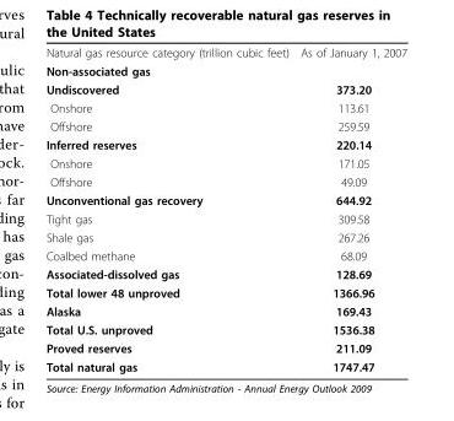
<table><tbody><tr><td>Natural gas resource category (trillion cubic feet)</td><td>As of January 1, 2007</td></tr><tr><td colspan="2">Non-associated gas</td></tr><tr><td>Undiscovered</td><td>373.20</td></tr><tr><td>Onshore</td><td>113.61</td></tr><tr><td>Offshore</td><td>259.59</td></tr><tr><td>Inferred reserves</td><td>220.14</td></tr><tr><td>Onshore</td><td>171.05</td></tr><tr><td>Offshore</td><td>49.09</td></tr><tr><td>Unconventional gas recovery</td><td>644.92</td></tr><tr><td>Tight gas</td><td>309.58</td></tr><tr><td>Shale gas</td><td>267.26</td></tr><tr><td>Coalbed methane</td><td>68.09</td></tr><tr><td>Associated-dissolved gas</td><td>128.69</td></tr><tr><td>Total lower 48 unproved</td><td>1366.96</td></tr><tr><td>Alaska</td><td>169.43</td></tr><tr><td>Total U.S. unproved</td><td>1536.38</td></tr><tr><td>Proved reserves</td><td>211.09</td></tr><tr><td>Total natural gas</td><td>1747.47</td></tr></tbody></table>